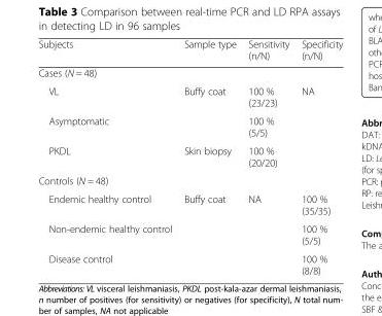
<table><thead><tr><td>Subjects</td><td>Sample type</td><td>Sensitivity (n/N)</td><td>Specificity (n/N)</td></tr></thead><tbody><tr><td colspan="4">Cases (N = 48)</td></tr><tr><td>VL</td><td rowspan="2">Buffy coat</td><td>100 % (23/23)</td><td rowspan="3">NA</td></tr><tr><td>Asymptomatic</td><td>100 % (5/5)</td></tr><tr><td>PKDL</td><td>Skin biopsy</td><td>100 % (20/20)</td></tr><tr><td colspan="4">Controls (N = 48)</td></tr><tr><td>Endemic healthy control</td><td rowspan="3">Buffy coat</td><td rowspan="3">NA</td><td>100 % (35/35)</td></tr><tr><td>Non-endemic healthy control</td><td>100 % (5/5)</td></tr><tr><td>Disease control</td><td>100 % (8/8)</td></tr></tbody></table>